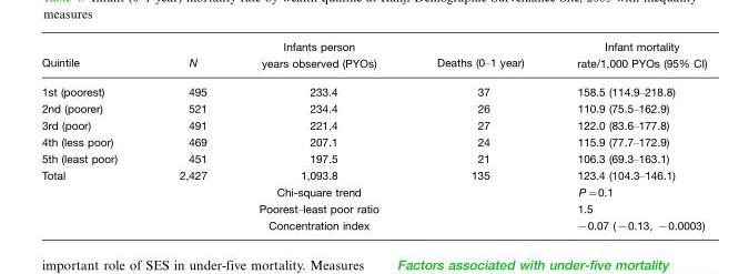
<table><thead><tr><td>Quintile</td><td>N</td><td>Infants person years observed (PYOs)</td><td>Deaths (0–1 year)</td><td>Infant mortality rate/1,000 PYOs (95% CI)</td></tr></thead><tbody><tr><td>1st (poorest)</td><td>495</td><td>233.4</td><td>37</td><td>158.5 (114.9–218.8)</td></tr><tr><td>2nd (poorer)</td><td>521</td><td>234.4</td><td>26</td><td>110.9 (75.5–162.9)</td></tr><tr><td>3rd (poor)</td><td>491</td><td>221.4</td><td>27</td><td>122.0 (83.6–177.8)</td></tr><tr><td>4th (less poor)</td><td>469</td><td>207.1</td><td>24</td><td>115.9 (77.7–172.9)</td></tr><tr><td>5th (least poor)</td><td>451</td><td>197.5</td><td>21</td><td>106.3 (69.3–163.1)</td></tr><tr><td rowspan="4">Total</td><td>2,427</td><td>1,093.8</td><td>135</td><td>123.4 (104.3–146.1)</td></tr><tr><td></td><td>Chi-square trend</td><td></td><td>P=0.1</td></tr><tr><td></td><td>Poorest–least poor ratio</td><td></td><td>1.5</td></tr><tr><td></td><td>Concentration index</td><td></td><td>−0.07 (−0.13, −0.0003)</td></tr></tbody></table>